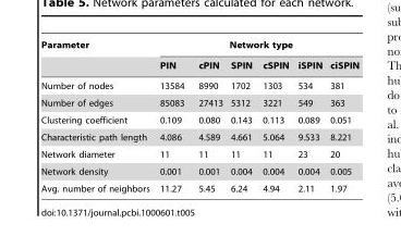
<table><thead><tr><td rowspan="2">Parameter</td><td colspan="6">Network type</td></tr><tr><td>PIN</td><td>cPIN</td><td>SPIN</td><td>cSPIN</td><td>iSPIN</td><td>ciSPIN</td></tr></thead><tbody><tr><td>Number of nodes</td><td>13584</td><td>8990</td><td>1702</td><td>1303</td><td>534</td><td>381</td></tr><tr><td>Number of edges</td><td>85083</td><td>27413</td><td>5312</td><td>3221</td><td>549</td><td>363</td></tr><tr><td>Clustering coefficient</td><td>0.109</td><td>0.080</td><td>0.143</td><td>0.113</td><td>0.089</td><td>0.051</td></tr><tr><td>Characteristic path length</td><td>4.086</td><td>4.589</td><td>4.661</td><td>5.064</td><td>9.533</td><td>8.221</td></tr><tr><td>Network diameter</td><td>11</td><td>11</td><td>11</td><td>11</td><td>23</td><td>20</td></tr><tr><td>Network density</td><td>0.001</td><td>0.001</td><td>0.004</td><td>0.004</td><td>0.004</td><td>0.005</td></tr><tr><td>Avg. number of neighbors</td><td>11.27</td><td>5.45</td><td>6.24</td><td>4.94</td><td>2.11</td><td>1.97</td></tr></tbody></table>